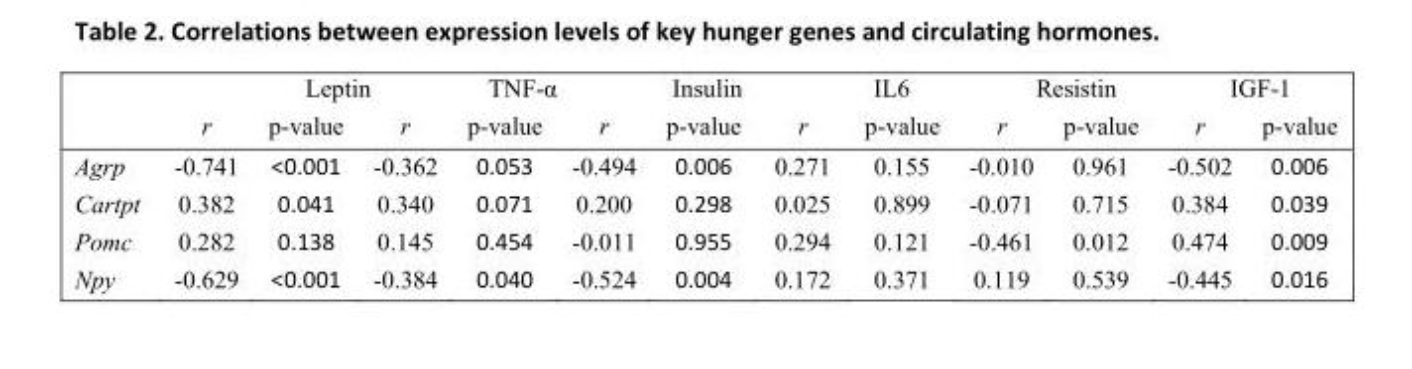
<table><thead><tr><td rowspan="2"></td><td colspan="2">Leptin</td><td colspan="2">TNF-α</td><td colspan="2">Insulin</td><td colspan="2">IL6</td><td colspan="2">Resistin</td><td colspan="2">IGF-1</td></tr><tr><td>r</td><td>p-value</td><td>r</td><td>p-value</td><td>r</td><td>p-value</td><td>r</td><td>p-value</td><td>r</td><td>p-value</td><td>r</td><td>p-value</td></tr></thead><tbody><tr><td>Agrp</td><td>-0.741</td><td>&lt;0.001</td><td>-0.362</td><td>0.053</td><td>-0.494</td><td>0.006</td><td>0.271</td><td>0.155</td><td>-0.010</td><td>0.961</td><td>-0.502</td><td>0.006</td></tr><tr><td>Cartpt</td><td>0.382</td><td>0.041</td><td>0.340</td><td>0.071</td><td>0.200</td><td>0.298</td><td>0.025</td><td>0.899</td><td>-0.071</td><td>0.715</td><td>0.384</td><td>0.039</td></tr><tr><td>Pomc</td><td>0.282</td><td>0.138</td><td>0.145</td><td>0.454</td><td>-0.011</td><td>0.955</td><td>0.294</td><td>0.121</td><td>-0.461</td><td>0.012</td><td>0.474</td><td>0.009</td></tr><tr><td>Npy</td><td>-0.629</td><td>&lt;0.001</td><td>-0.384</td><td>0.040</td><td>-0.524</td><td>0.004</td><td>0.172</td><td>0.371</td><td>0.119</td><td>0.539</td><td>-0.445</td><td>0.016</td></tr></tbody></table>